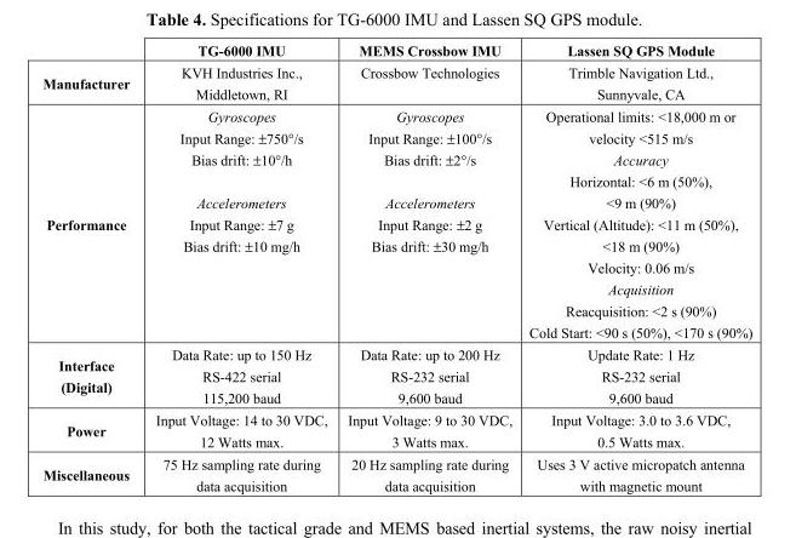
<table><thead><tr><td></td><td>TG-6000 IMU</td><td>MEMS Crossbow IMU</td><td>Lassen SQ GPS Module</td></tr></thead><tbody><tr><td>Manufacturer</td><td>KVH Industries Inc., Middletown, RI</td><td>Crossbow Technologies</td><td>Trimble Navigation Ltd., Sunnyvale, CA</td></tr><tr><td>Performance</td><td>Gyroscopes Input Range: ±750°/s Bias drift: ±10°/h Accelerometers Input Range: ±7 g Bias drift: ±10 mg/h</td><td>Gyroscopes Input Range: ±100°/s Bias drift: ±2°/s Accelerometers Input Range: ±2 g Bias drift: ±30 mg/h</td><td>Operational limits: &lt;18,000 m or velocity &lt;515 m/s Accuracy Horizontal: &lt;6 m (50%), &lt;9 m (90%) Vertical (Altitude): &lt;11 m (50%), &lt;18 m (90%) Velocity: 0.06 m/s Acquisition Reacquisition: &lt;2 s (90%) Cold Start: &lt;90 s (50%), &lt;170 s (90%)</td></tr><tr><td>Interface (Digital)</td><td>Data Rate: up to 150 Hz RS-422 serial 115,200 baud</td><td>Data Rate: up to 200 Hz RS-232 serial 9,600 baud</td><td>Update Rate: 1 Hz RS-232 serial 9,600 baud</td></tr><tr><td>Power</td><td>Input Voltage: 14 to 30 VDC, 12 Watts max.</td><td>Input Voltage: 9 to 30 VDC, 3 Watts max.</td><td>Input Voltage: 3.0 to 3.6 VDC, 0.5 Watts max.</td></tr><tr><td>Miscellaneous</td><td>75 Hz sampling rate during data acquisition</td><td>20 Hz sampling rate during data acquisition</td><td>Uses 3 V active micropatch antenna with magnetic mount</td></tr></tbody></table>